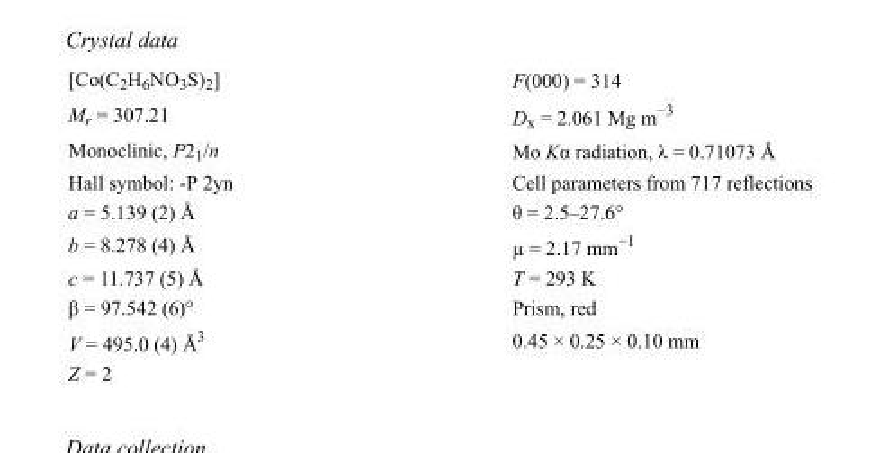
<table><tbody><tr><td>[Co(C<sub>2</sub>H<sub>6</sub>NO<sub>3</sub>S)<sub>2</sub>]</td><td>F(000) = 314</td></tr><tr><td>M<sub>r</sub> = 307.21</td><td>D<sub>x</sub> = 2.061 Mg m<sup>−3</sup></td></tr><tr><td>Monoclinic, P2<sub>1</sub>/n</td><td>Mo Kα radiation, λ = 0.71073 Å</td></tr><tr><td>Hall symbol: -P 2yn</td><td>Cell parameters from 717 reflections</td></tr><tr><td>a = 5.139 (2) Å</td><td>θ = 2.5–27.6°</td></tr><tr><td>b = 8.278 (4) Å</td><td>µ = 2.17 mm<sup>−1</sup></td></tr><tr><td>c = 11.737 (5) Å</td><td>T = 293 K</td></tr><tr><td>β = 97.542 (6)°</td><td>Prism, red</td></tr><tr><td>V = 495.0 (4) Å<sup>3</sup></td><td>0.45 × 0.25 × 0.10 mm</td></tr><tr><td>Z = 2</td><td></td></tr></tbody></table>